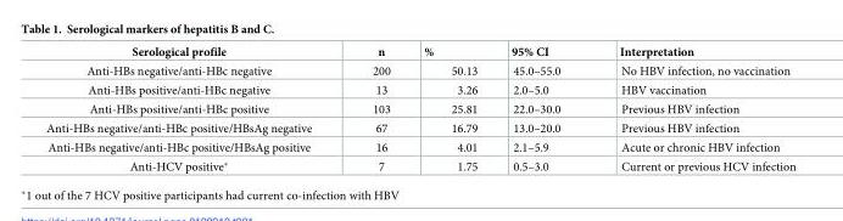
<table><thead><tr><td>Serological profile</td><td>n</td><td>%</td><td>95% CI</td><td>Interpretation</td></tr></thead><tbody><tr><td>Anti-HBs negative/anti-HBc negative</td><td>200</td><td>50.13</td><td>45.0–55.0</td><td>No HBV infection, no vaccination</td></tr><tr><td>Anti-HBs positive/anti-HBc negative</td><td>13</td><td>3.26</td><td>2.0–5.0</td><td>HBV vaccination</td></tr><tr><td>Anti-HBs positive/anti-HBc positive</td><td>103</td><td>25.81</td><td>22.0–30.0</td><td>Previous HBV infection</td></tr><tr><td>Anti-HBs negative/anti-HBc positive/HBsAg negative</td><td>67</td><td>16.79</td><td>13.0–20.0</td><td>Previous HBV infection</td></tr><tr><td>Anti-HBs negative/anti-HBc positive/HBsAg positive</td><td>16</td><td>4.01</td><td>2.1–5.9</td><td>Acute or chronic HBV infection</td></tr><tr><td>Anti-HCV positive*</td><td>7</td><td>1.75</td><td>0.5–3.0</td><td>Current or previous HCV infection</td></tr></tbody></table>